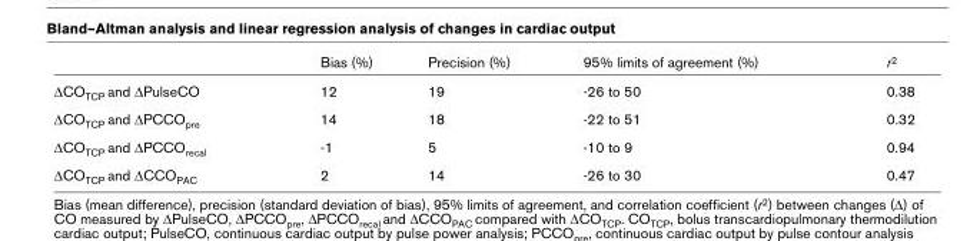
<table><thead><tr><td></td><td>Bias (%)</td><td>Precision (%)</td><td>95% limits of agreement (%)</td><td>r<sup>2</sup></td></tr></thead><tbody><tr><td>ΔCO<sub>TCP</sub> and ΔPulseCO</td><td>12</td><td>19</td><td>-26 to 50</td><td>0.38</td></tr><tr><td>ΔCO<sub>TCP</sub> and ΔPCCO<sub>pre</sub></td><td>14</td><td>18</td><td>-22 to 51</td><td>0.32</td></tr><tr><td>ΔCO<sub>TCP</sub> and ΔPCCO<sub>recal</sub></td><td>-1</td><td>5</td><td>-10 to 9</td><td>0.94</td></tr><tr><td>ΔCO<sub>TCP</sub> and ΔCCO<sub>PAC</sub></td><td>2</td><td>14</td><td>-26 to 30</td><td>0.47</td></tr></tbody></table>